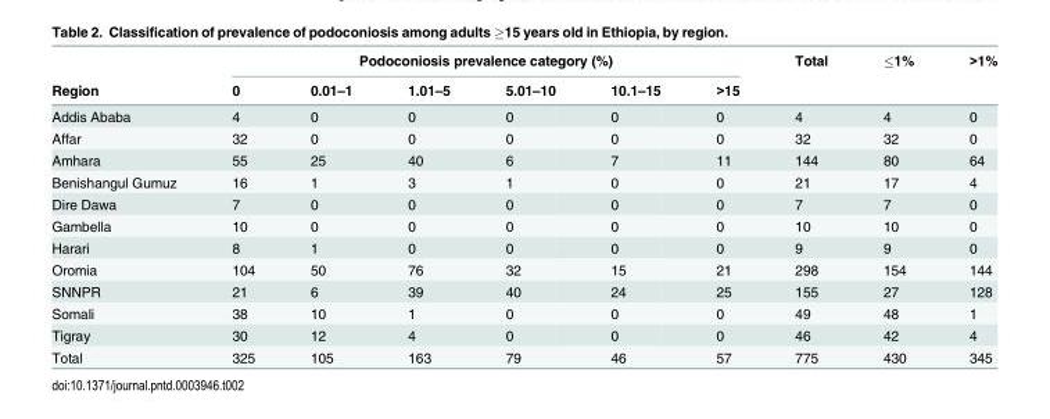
<table><thead><tr><td rowspan="2">Region</td><td colspan="6">Podoconiosis prevalence category (%)</td><td rowspan="2">Total</td><td rowspan="2">≤1%</td><td rowspan="2">&gt;1%</td></tr><tr><td>0</td><td>0.01–1</td><td>1.01–5</td><td>5.01–10</td><td>10.1–15</td><td>&gt;15</td></tr></thead><tbody><tr><td>Addis Ababa</td><td>4</td><td>0</td><td>0</td><td>0</td><td>0</td><td>0</td><td>4</td><td>4</td><td>0</td></tr><tr><td>Affar</td><td>32</td><td>0</td><td>0</td><td>0</td><td>0</td><td>0</td><td>32</td><td>32</td><td>0</td></tr><tr><td>Amhara</td><td>55</td><td>25</td><td>40</td><td>6</td><td>7</td><td>11</td><td>144</td><td>80</td><td>64</td></tr><tr><td>Benishangul Gumuz</td><td>16</td><td>1</td><td>3</td><td>1</td><td>0</td><td>0</td><td>21</td><td>17</td><td>4</td></tr><tr><td>Dire Dawa</td><td>7</td><td>0</td><td>0</td><td>0</td><td>0</td><td>0</td><td>7</td><td>7</td><td>0</td></tr><tr><td>Gambella</td><td>10</td><td>0</td><td>0</td><td>0</td><td>0</td><td>0</td><td>10</td><td>10</td><td>0</td></tr><tr><td>Harari</td><td>8</td><td>1</td><td>0</td><td>0</td><td>0</td><td>0</td><td>9</td><td>9</td><td>0</td></tr><tr><td>Oromia</td><td>104</td><td>50</td><td>76</td><td>32</td><td>15</td><td>21</td><td>298</td><td>154</td><td>144</td></tr><tr><td>SNNPR</td><td>21</td><td>6</td><td>39</td><td>40</td><td>24</td><td>25</td><td>155</td><td>27</td><td>128</td></tr><tr><td>Somali</td><td>38</td><td>10</td><td>1</td><td>0</td><td>0</td><td>0</td><td>49</td><td>48</td><td>1</td></tr><tr><td>Tigray</td><td>30</td><td>12</td><td>4</td><td>0</td><td>0</td><td>0</td><td>46</td><td>42</td><td>4</td></tr><tr><td>Total</td><td>325</td><td>105</td><td>163</td><td>79</td><td>46</td><td>57</td><td>775</td><td>430</td><td>345</td></tr></tbody></table>